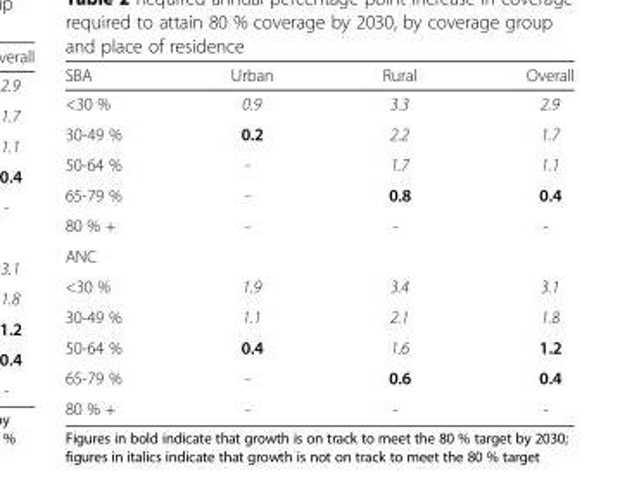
<table><thead><tr><td>SBA</td><td>Urban</td><td>Rural</td><td>Overall</td></tr></thead><tbody><tr><td>&lt;30 %</td><td>0.9</td><td>3.3</td><td>2.9</td></tr><tr><td>30-49 %</td><td>0.2</td><td>2.2</td><td>1.7</td></tr><tr><td>50-64 %</td><td>-</td><td>1.7</td><td>1.1</td></tr><tr><td>65-79 %</td><td>-</td><td>0.8</td><td>0.4</td></tr><tr><td>80 % +</td><td>-</td><td>-</td><td>-</td></tr><tr><td colspan="4">ANC</td></tr><tr><td>&lt;30 %</td><td>1.9</td><td>3.4</td><td>3.1</td></tr><tr><td>30-49 %</td><td>1.1</td><td>2.1</td><td>1.8</td></tr><tr><td>50-64 %</td><td>0.4</td><td>1.6</td><td>1.2</td></tr><tr><td>65-79 %</td><td>-</td><td>0.6</td><td>0.4</td></tr><tr><td>80 % +</td><td>-</td><td>-</td><td>-</td></tr></tbody></table>